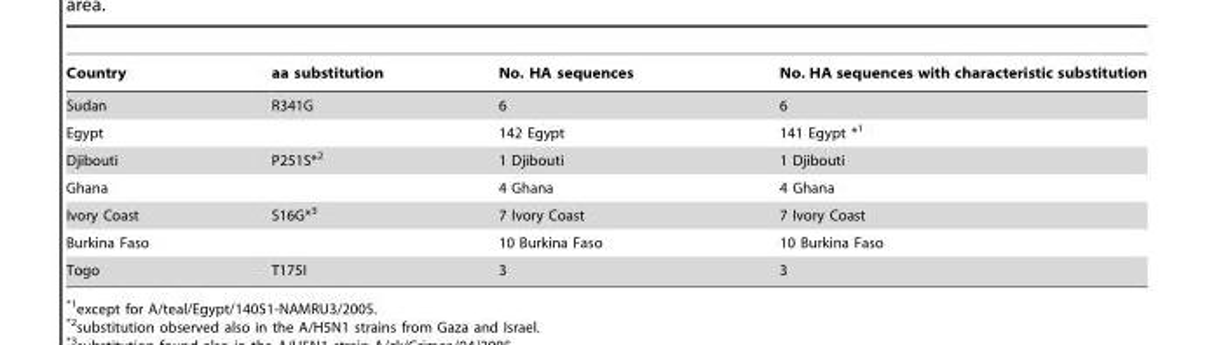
<table><thead><tr><td>Country</td><td>aa substitution</td><td>No. HA sequences</td><td>No. HA sequences with characteristic substitution</td></tr></thead><tbody><tr><td>Sudan</td><td>R341G</td><td>6</td><td>6</td></tr><tr><td>Egypt</td><td></td><td>142 Egypt</td><td>141 Egypt *1</td></tr><tr><td>Djibouti</td><td>P251S*2</td><td>1 Djibouti</td><td>1 Djibouti</td></tr><tr><td>Ghana</td><td></td><td>4 Ghana</td><td>4 Ghana</td></tr><tr><td>Ivory Coast</td><td>S16G*3</td><td>7 Ivory Coast</td><td>7 Ivory Coast</td></tr><tr><td>Burkina Faso</td><td></td><td>10 Burkina Faso</td><td>10 Burkina Faso</td></tr><tr><td>Togo</td><td>T175I</td><td>3</td><td>3</td></tr></tbody></table>